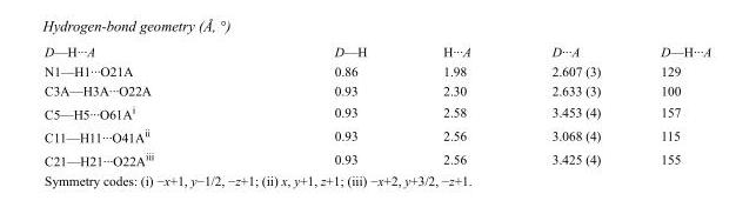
<table><tbody><tr><td>D—H···A</td><td>D—H</td><td>H···A</td><td>D···A</td><td>D—H···A</td></tr><tr><td>N1—H1···O21A</td><td>0.86</td><td>1.98</td><td>2.607 (3)</td><td>129</td></tr><tr><td>C3A—H3A···O22A</td><td>0.93</td><td>2.30</td><td>2.633 (3)</td><td>100</td></tr><tr><td>C5—H5···O61A<sup>i</sup></td><td>0.93</td><td>2.58</td><td>3.453 (4)</td><td>157</td></tr><tr><td>C11—H11···O41A<sup>ii</sup></td><td>0.93</td><td>2.56</td><td>3.068 (4)</td><td>115</td></tr><tr><td>C21—H21···O22A<sup>iii</sup></td><td>0.93</td><td>2.56</td><td>3.425 (4)</td><td>155</td></tr></tbody></table>